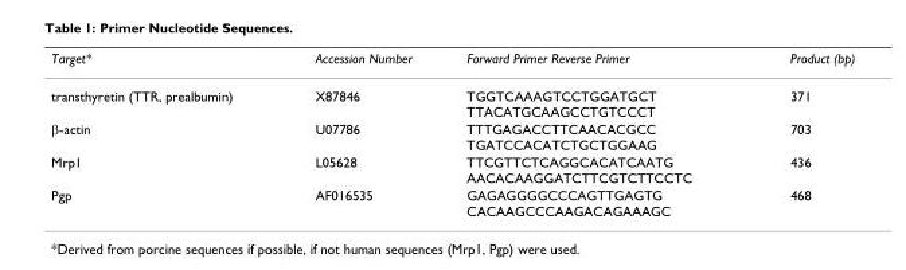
<table><thead><tr><td>Target*</td><td>Accession Number</td><td>Forward Primer Reverse Primer</td><td>Product (bp)</td></tr></thead><tbody><tr><td>transthyretin (TTR, prealbumin)</td><td>X87846</td><td>TGGTCAAAGTCCTGGATGCT TTACATGCAAGCCTGTCCCT</td><td>371</td></tr><tr><td>β-actin</td><td>U07786</td><td>TTTGAGACCTTCAACACGCC TGATCCACATCTGCTGGAAG</td><td>703</td></tr><tr><td>Mrp1</td><td>L05628</td><td>TTCGTTCTCAGGCACATCAATG AACACAAGGATCTTCGTCTTCCTC</td><td>436</td></tr><tr><td>Pgp</td><td>AF016535</td><td>GAGAGGGGCCCAGTTGAGTG CACAAGCCCAAGACAGAAAGC</td><td>468</td></tr></tbody></table>